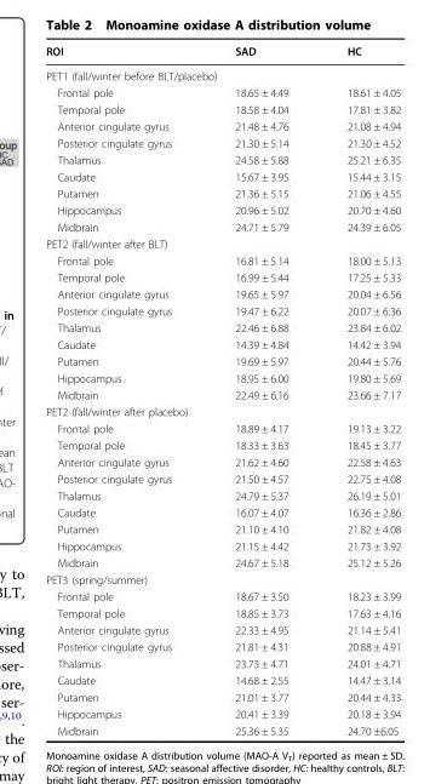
<table><thead><tr><td>ROI</td><td>SAD</td><td>HC</td></tr></thead><tbody><tr><td colspan="3">PET1 (fall/winter before BLT/placebo)</td></tr><tr><td>Frontal pole</td><td>18.65 ± 4.49</td><td>18.61 ± 4.05</td></tr><tr><td>Temporal pole</td><td>18.58 ± 4.04</td><td>17.81 ± 3.82</td></tr><tr><td>Anterior cingulate gyrus</td><td>21.48 ± 4.76</td><td>21.08 ± 4.94</td></tr><tr><td>Posterior cingulate gyrus</td><td>21.30 ± 5.14</td><td>21.30 ± 4.52</td></tr><tr><td>Thalamus</td><td>24.58 ± 5.88</td><td>25.21 ± 6.35</td></tr><tr><td>Caudate</td><td>15.67 ± 3.95</td><td>15.44 ± 3.15</td></tr><tr><td>Putamen</td><td>21.36 ± 5.15</td><td>21.06 ± 4.55</td></tr><tr><td>Hippocampus</td><td>20.96 ± 5.02</td><td>20.70 ± 4.60</td></tr><tr><td>Midbrain</td><td>24.71 ± 5.79</td><td>24.39 ± 6.05</td></tr><tr><td colspan="3">PET2 (fall/winter after BLT)</td></tr><tr><td>Frontal pole</td><td>16.81 ± 5.14</td><td>18.00 ± 5.13</td></tr><tr><td>Temporal pole</td><td>16.99 ± 5.44</td><td>17.25 ± 5.33</td></tr><tr><td>Anterior cingulate gyrus</td><td>19.65 ± 5.97</td><td>20.04 ± 6.56</td></tr><tr><td>Posterior cingulate gyrus</td><td>19.47 ± 6.22</td><td>20.07 ± 6.36</td></tr><tr><td>Thalamus</td><td>22.46 ± 6.88</td><td>23.84 ± 6.02</td></tr><tr><td>Caudate</td><td>14.39 ± 4.84</td><td>14.42 ± 3.94</td></tr><tr><td>Putamen</td><td>19.69 ± 5.97</td><td>20.44 ± 5.76</td></tr><tr><td>Hippocampus</td><td>18.95 ± 6.00</td><td>19.80 ± 5.69</td></tr><tr><td>Midbrain</td><td>22.49 ± 6.16</td><td>23.66 ± 7.17</td></tr><tr><td colspan="3">PET2 (fall/winter after placebo)</td></tr><tr><td>Frontal pole</td><td>18.89 ± 4.17</td><td>19.13 ± 3.22</td></tr><tr><td>Temporal pole</td><td>18.33 ± 3.63</td><td>18.45 ± 3.77</td></tr><tr><td>Anterior cingulate gyrus</td><td>21.62 ± 4.60</td><td>22.58 ± 4.63</td></tr><tr><td>Posterior cingulate gyrus</td><td>21.50 ± 4.57</td><td>22.75 ± 4.08</td></tr><tr><td>Thalamus</td><td>24.79 ± 5.37</td><td>26.19 ± 5.01</td></tr><tr><td>Caudate</td><td>16.07 ± 4.07</td><td>16.36 ± 2.86</td></tr><tr><td>Putamen</td><td>21.10 ± 4.10</td><td>21.82 ± 4.08</td></tr><tr><td>Hippocampus</td><td>21.15 ± 4.42</td><td>21.73 ± 3.92</td></tr><tr><td>Midbrain</td><td>24.67 ± 5.18</td><td>25.12 ± 5.26</td></tr><tr><td colspan="3">PET3 (spring/summer)</td></tr><tr><td>Frontal pole</td><td>18.67 ± 3.50</td><td>18.23 ± 3.99</td></tr><tr><td>Temporal pole</td><td>18.85 ± 3.73</td><td>17.63 ± 4.16</td></tr><tr><td>Anterior cingulate gyrus</td><td>22.33 ± 4.95</td><td>21.14 ± 5.41</td></tr><tr><td>Posterior cingulate gyrus</td><td>21.81 ± 4.31</td><td>20.88 ± 4.91</td></tr><tr><td>Thalamus</td><td>23.73 ± 4.71</td><td>24.01 ± 4.71</td></tr><tr><td>Caudate</td><td>14.68 ± 2.55</td><td>14.47 ± 3.14</td></tr><tr><td>Putamen</td><td>21.01 ± 3.77</td><td>20.44 ± 4.33</td></tr><tr><td>Hippocampus</td><td>20.41 ± 3.39</td><td>20.18 ± 3.94</td></tr><tr><td>Midbrain</td><td>25.36 ± 5.35</td><td>24.70 ±6.05</td></tr></tbody></table>